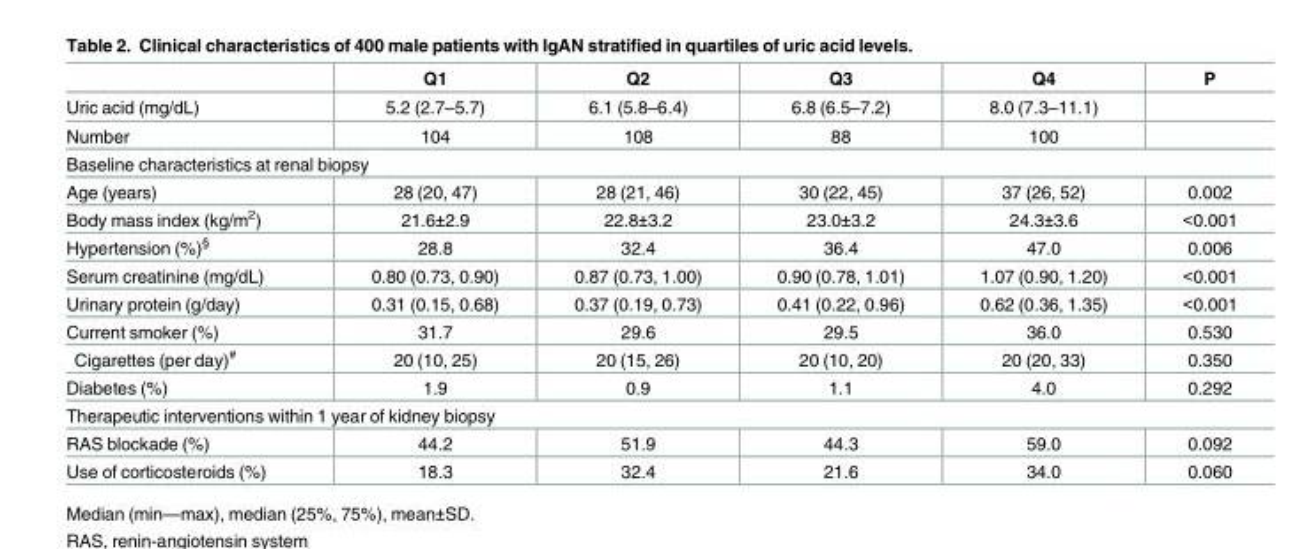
<table><thead><tr><td></td><td>Q1</td><td>Q2</td><td>Q3</td><td>Q4</td><td>P</td></tr></thead><tbody><tr><td>Uric acid (mg/dL)</td><td>5.2 (2.7–5.7)</td><td>6.1 (5.8–6.4)</td><td>6.8 (6.5–7.2)</td><td>8.0 (7.3–11.1)</td><td></td></tr><tr><td>Number</td><td>104</td><td>108</td><td>88</td><td>100</td><td></td></tr><tr><td colspan="6">Baseline characteristics at renal biopsy</td></tr><tr><td>Age (years)</td><td>28 (20, 47)</td><td>28 (21, 46)</td><td>30 (22, 45)</td><td>37 (26, 52)</td><td>0.002</td></tr><tr><td>Body mass index (kg/m<sup>2</sup>)</td><td>21.6±2.9</td><td>22.8±3.2</td><td>23.0±3.2</td><td>24.3±3.6</td><td>&lt;0.001</td></tr><tr><td>Hypertension (%)<sup>§</sup></td><td>28.8</td><td>32.4</td><td>36.4</td><td>47.0</td><td>0.006</td></tr><tr><td>Serum creatinine (mg/dL)</td><td>0.80 (0.73, 0.90)</td><td>0.87 (0.73, 1.00)</td><td>0.90 (0.78, 1.01)</td><td>1.07 (0.90, 1.20)</td><td>&lt;0.001</td></tr><tr><td>Urinary protein (g/day)</td><td>0.31 (0.15, 0.68)</td><td>0.37 (0.19, 0.73)</td><td>0.41 (0.22, 0.96)</td><td>0.62 (0.36, 1.35)</td><td>&lt;0.001</td></tr><tr><td>Current smoker (%)</td><td>31.7</td><td>29.6</td><td>29.5</td><td>36.0</td><td>0.530</td></tr><tr><td>Cigarettes (per day)<sup>#</sup></td><td>20 (10, 25)</td><td>20 (15, 26)</td><td>20 (10, 20)</td><td>20 (20, 33)</td><td>0.350</td></tr><tr><td>Diabetes (%)</td><td>1.9</td><td>0.9</td><td>1.1</td><td>4.0</td><td>0.292</td></tr><tr><td colspan="6">Therapeutic interventions within 1 year of kidney biopsy</td></tr><tr><td>RAS blockade (%)</td><td>44.2</td><td>51.9</td><td>44.3</td><td>59.0</td><td>0.092</td></tr><tr><td>Use of corticosteroids (%)</td><td>18.3</td><td>32.4</td><td>21.6</td><td>34.0</td><td>0.060</td></tr></tbody></table>